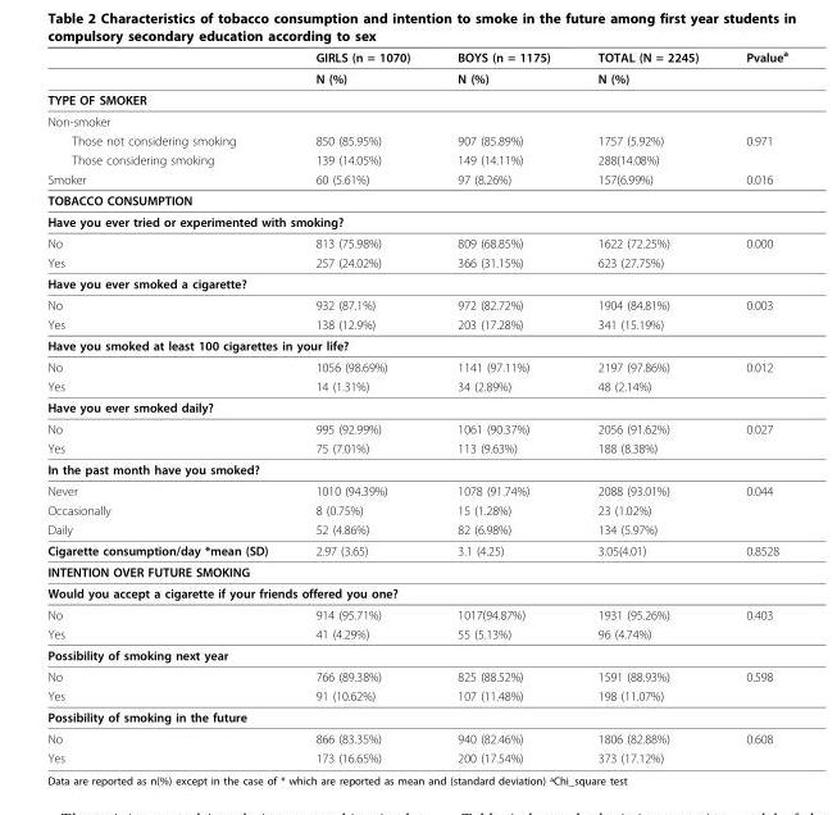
<table><thead><tr><td></td><td>GIRLS (n = 1070)</td><td>BOYS (n = 1175)</td><td>TOTAL (N = 2245)</td><td>Pvalue<sup>a</sup></td></tr></thead><tbody><tr><td></td><td>N (%)</td><td>N (%)</td><td>N (%)</td><td></td></tr><tr><td colspan="5">TYPE OF SMOKER</td></tr><tr><td colspan="5">Non-smoker</td></tr><tr><td>Those not considering smoking</td><td>850 (85.95%)</td><td>907 (85.89%)</td><td>1757 (5.92%)</td><td>0.971</td></tr><tr><td>Those considering smoking</td><td>139 (14.05%)</td><td>149 (14.11%)</td><td>288(14.08%)</td><td></td></tr><tr><td>Smoker</td><td>60 (5.61%)</td><td>97 (8.26%)</td><td>157(6.99%)</td><td>0.016</td></tr><tr><td colspan="5">TOBACCO CONSUMPTION</td></tr><tr><td colspan="5">Have you ever tried or experimented with smoking?</td></tr><tr><td>No</td><td>813 (75.98%)</td><td>809 (68.85%)</td><td>1622 (72.25%)</td><td>0.000</td></tr><tr><td>Yes</td><td>257 (24.02%)</td><td>366 (31.15%)</td><td>623 (27.75%)</td><td></td></tr><tr><td colspan="5">Have you ever smoked a cigarette?</td></tr><tr><td>No</td><td>932 (87.1%)</td><td>972 (82.72%)</td><td>1904 (84.81%)</td><td>0.003</td></tr><tr><td>Yes</td><td>138 (12.9%)</td><td>203 (17.28%)</td><td>341 (15.19%)</td><td></td></tr><tr><td colspan="5">Have you smoked at least 100 cigarettes in your life?</td></tr><tr><td>No</td><td>1056 (98.69%)</td><td>1141 (97.11%)</td><td>2197 (97.86%)</td><td>0.012</td></tr><tr><td>Yes</td><td>14 (1.31%)</td><td>34 (2.89%)</td><td>48 (2.14%)</td><td></td></tr><tr><td colspan="5">Have you ever smoked daily?</td></tr><tr><td>No</td><td>995 (92.99%)</td><td>1061 (90.37%)</td><td>2056 (91.62%)</td><td>0.027</td></tr><tr><td>Yes</td><td>75 (7.01%)</td><td>113 (9.63%)</td><td>188 (8.38%)</td><td></td></tr><tr><td colspan="5">In the past month have you smoked?</td></tr><tr><td>Never</td><td>1010 (94.39%)</td><td>1078 (91.74%)</td><td>2088 (93.01%)</td><td>0.044</td></tr><tr><td>Occasionally</td><td>8 (0.75%)</td><td>15 (1.28%)</td><td>23 (1.02%)</td><td></td></tr><tr><td>Daily</td><td>52 (4.86%)</td><td>82 (6.98%)</td><td>134 (5.97%)</td><td></td></tr><tr><td>Cigarette consumption/day *mean (SD)</td><td>2.97 (3.65)</td><td>3.1 (4.25)</td><td>3.05(4.01)</td><td>0.8528</td></tr><tr><td colspan="5">INTENTION OVER FUTURE SMOKING</td></tr><tr><td colspan="5">Would you accept a cigarette if your friends offered you one?</td></tr><tr><td>No</td><td>914 (95.71%)</td><td>1017(94.87%)</td><td>1931 (95.26%)</td><td>0.403</td></tr><tr><td>Yes</td><td>41 (4.29%)</td><td>55 (5.13%)</td><td>96 (4.74%)</td><td></td></tr><tr><td colspan="5">Possibility of smoking next year</td></tr><tr><td>No</td><td>766 (89.38%)</td><td>825 (88.52%)</td><td>1591 (88.93%)</td><td>0.598</td></tr><tr><td>Yes</td><td>91 (10.62%)</td><td>107 (11.48%)</td><td>198 (11.07%)</td><td></td></tr><tr><td colspan="5">Possibility of smoking in the future</td></tr><tr><td>No</td><td>866 (83.35%)</td><td>940 (82.46%)</td><td>1806 (82.88%)</td><td>0.608</td></tr><tr><td>Yes</td><td>173 (16.65%)</td><td>200 (17.54%)</td><td>373 (17.12%)</td><td></td></tr></tbody></table>